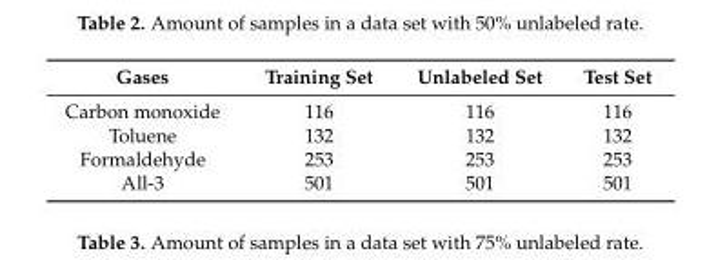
<table><thead><tr><td>Gases</td><td>Training Set</td><td>Unlabeled Set</td><td>Test Set</td></tr></thead><tbody><tr><td>Carbon monoxide</td><td>116</td><td>116</td><td>116</td></tr><tr><td>Toluene</td><td>132</td><td>132</td><td>132</td></tr><tr><td>Formaldehyde</td><td>253</td><td>253</td><td>253</td></tr><tr><td>All-3</td><td>501</td><td>501</td><td>501</td></tr></tbody></table>